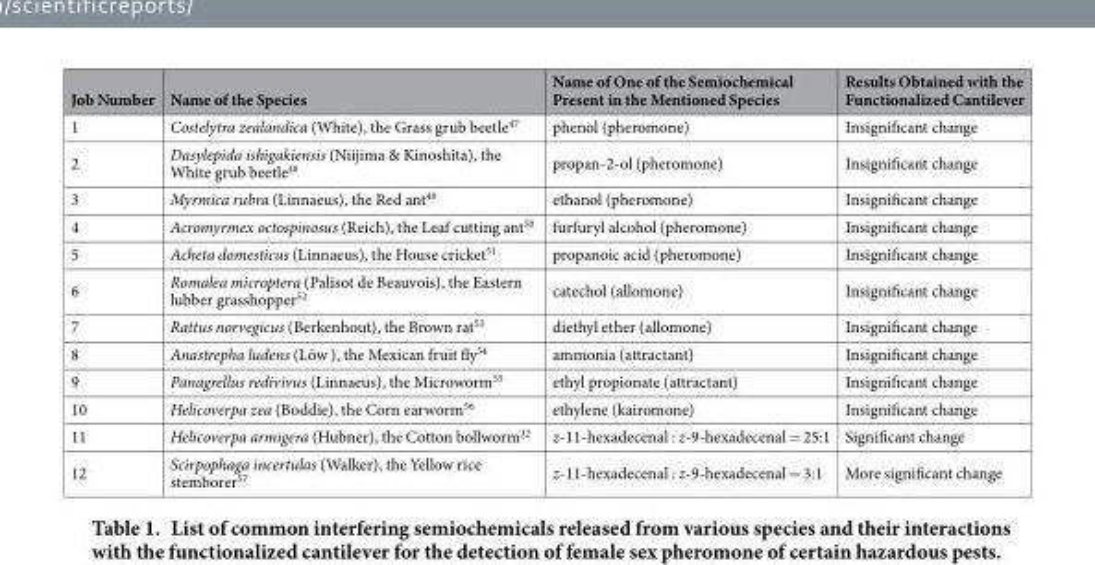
<table><thead><tr><td>Job Number</td><td>Name of the Species</td><td>Name of One of the Semiochemical Present in the Mentioned Species</td><td>Results Obtained with the Functionalized Cantilever</td></tr></thead><tbody><tr><td>1</td><td>Costelytra zealandica (White), the Grass grub beetle<sup>47</sup></td><td>phenol (pheromone)</td><td>Insignificant change</td></tr><tr><td>2</td><td>Dasylepida ishigakiensis (Niijima &amp; Kinoshita), the White grub beetle<sup>48</sup></td><td>propan-2-ol (pheromone)</td><td>Insignificant change</td></tr><tr><td>3</td><td>Myrmica rubra (Linnaeus), the Red ant<sup>49</sup></td><td>ethanol (pheromone)</td><td>Insignificant change</td></tr><tr><td>4</td><td>Acromyrmex octospinosus (Reich), the Leaf cutting ant<sup>50</sup></td><td>furfuryl alcohol (pheromone)</td><td>Insignificant change</td></tr><tr><td>5</td><td>Acheta domesticus (Linnaeus), the House cricket<sup>51</sup></td><td>propanoic acid (pheromone)</td><td>Insignificant change</td></tr><tr><td>6</td><td>Romalea microptera (Palisot de Beauvois), the Eastern lubber grasshopper<sup>52</sup></td><td>catechol (allomone)</td><td>Insignificant change</td></tr><tr><td>7</td><td>Rattus norvegicus (Berkenhout), the Brown rat<sup>53</sup></td><td>diethyl ether (allomone)</td><td>Insignificant change</td></tr><tr><td>8</td><td>Anastrepha ludens (Löw ), the Mexican fruit fly<sup>54</sup></td><td>ammonia (attractant)</td><td>Insignificant change</td></tr><tr><td>9</td><td>Panagrellus redivivus (Linnaeus), the Microworm<sup>55</sup></td><td>ethyl propionate (attractant)</td><td>Insignificant change</td></tr><tr><td>10</td><td>Helicoverpa zea (Boddie), the Corn earworm<sup>56</sup></td><td>ethylene (kairomone)</td><td>Insignificant change</td></tr><tr><td>11</td><td>Helicoverpa armigera (Hubner), the Cotton bollworm32</td><td>z-11-hexadecenal : z-9-hexadecenal = 25:1</td><td>Significant change</td></tr><tr><td>12</td><td>Scirpophaga incertulas (Walker), the Yellow rice stemborer<sup>57</sup></td><td>z-11-hexadecenal : z-9-hexadecenal = 3:1</td><td>More significant change</td></tr></tbody></table>